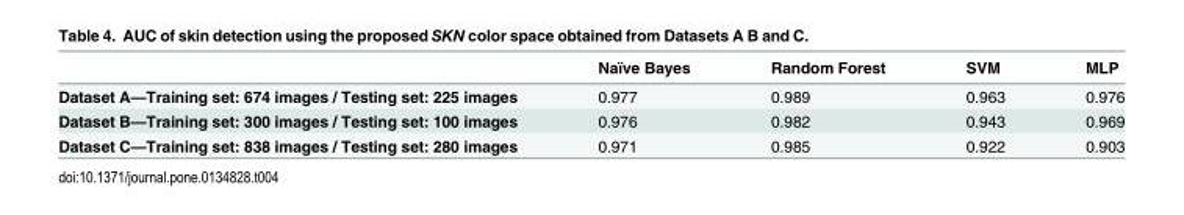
<table><thead><tr><td></td><td>Naïve Bayes</td><td>Random Forest</td><td>SVM</td><td>MLP</td></tr></thead><tbody><tr><td>Dataset A—Training set: 674 images / Testing set: 225 images</td><td>0.977</td><td>0.989</td><td>0.963</td><td>0.976</td></tr><tr><td>Dataset B—Training set: 300 images / Testing set: 100 images</td><td>0.976</td><td>0.982</td><td>0.943</td><td>0.969</td></tr><tr><td>Dataset C—Training set: 838 images / Testing set: 280 images</td><td>0.971</td><td>0.985</td><td>0.922</td><td>0.903</td></tr></tbody></table>